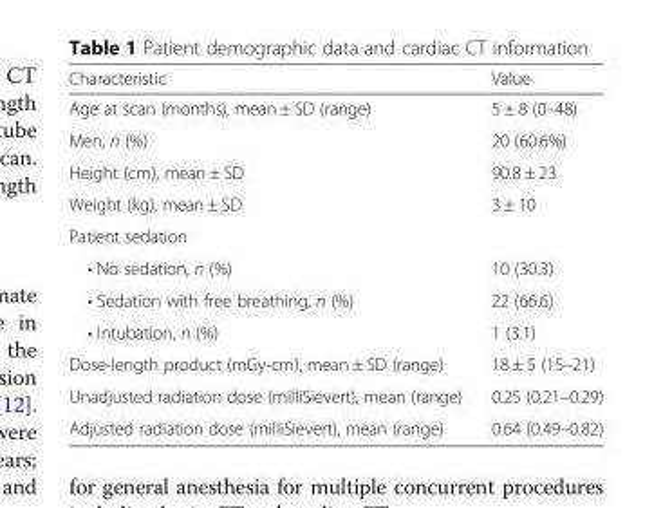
<table><thead><tr><td>Characteristic</td><td>Value</td></tr></thead><tbody><tr><td>Age at scan (months), mean ± SD (range)</td><td>5 ± 8 (0–48)</td></tr><tr><td>Men, n (%)</td><td>20 (60.6%)</td></tr><tr><td>Height (cm), mean ± SD</td><td>90.8 ± 23</td></tr><tr><td>Weight (kg), mean ± SD</td><td>3 ± 10</td></tr><tr><td colspan="2">Patient sedation</td></tr><tr><td>• No sedation, n (%)</td><td>10 (30.3)</td></tr><tr><td>• Sedation with free breathing, n (%)</td><td>22 (66.6)</td></tr><tr><td>• Intubation, n (%)</td><td>1 (3.1)</td></tr><tr><td>Dose-length product (mGy-cm), mean ± SD (range)</td><td>18 ± 5 (15–21)</td></tr><tr><td>Unadjusted radiation dose (milliSievert), mean (range)</td><td>0.25 (0.21–0.29)</td></tr><tr><td>Adjusted radiation dose (milliSievert), mean (range)</td><td>0.64 (0.49–0.82)</td></tr></tbody></table>